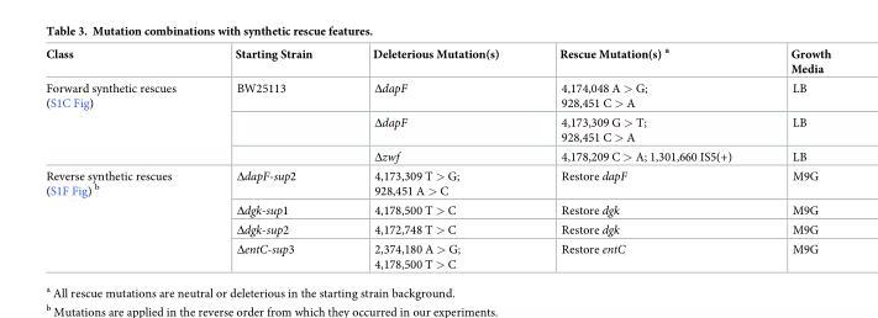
<table><thead><tr><td>Class</td><td>Starting Strain</td><td>Deleterious Mutation(s)</td><td>Rescue Mutation(s) <sup>a</sup></td><td>Growth Media</td></tr></thead><tbody><tr><td rowspan="3">Forward synthetic rescues (S1C Fig)</td><td>BW25113</td><td>ΔdapF</td><td>4,174,048 A &gt; G; 928,451 C &gt; A</td><td>LB</td></tr><tr><td></td><td>ΔdapF</td><td>4,173,309 G &gt; T; 928,451 C &gt; A</td><td>LB</td></tr><tr><td></td><td>Δzwf</td><td>4,178,209 C &gt; A; 1,301,660 IS5(+)</td><td>LB</td></tr><tr><td rowspan="4">Reverse synthetic rescues (S1F Fig) <sup>b</sup></td><td>ΔdapF-sup2</td><td>4,173,309 T &gt; G; 928,451 A &gt; C</td><td>Restore dapF</td><td>M9G</td></tr><tr><td>Δdgk-sup1</td><td>4,178,500 T &gt; C</td><td>Restore dgk</td><td>M9G</td></tr><tr><td>Δdgk-sup2</td><td>4,172,748 T &gt; C</td><td>Restore dgk</td><td>M9G</td></tr><tr><td>ΔentC-sup3</td><td>2,374,180 A &gt; G; 4,178,500 T &gt; C</td><td>Restore entC</td><td>M9G</td></tr></tbody></table>